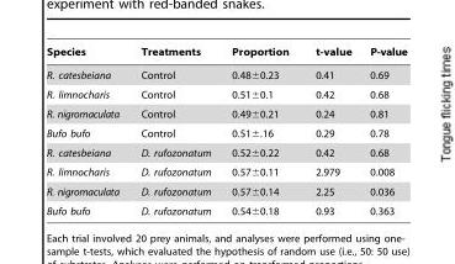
<table><thead><tr><td>Species</td><td>Treatments</td><td>Proportion</td><td>t-value</td><td>P-value</td></tr></thead><tbody><tr><td>R. catesbeiana</td><td>Control</td><td>0.48±0.23</td><td>0.41</td><td>0.69</td></tr><tr><td>R. limnocharis</td><td>Control</td><td>0.51±0.1</td><td>0.42</td><td>0.68</td></tr><tr><td>R. nigromaculata</td><td>Control</td><td>0.49±0.21</td><td>0.24</td><td>0.81</td></tr><tr><td>Bufo bufo</td><td>Control</td><td>0.51±.16</td><td>0.29</td><td>0.78</td></tr><tr><td>R. catesbeiana</td><td>D. rufozonatum</td><td>0.52±0.22</td><td>0.42</td><td>0.68</td></tr><tr><td>R. limnocharis</td><td>D. rufozonatum</td><td>0.57±0.11</td><td>2.979</td><td>0.008</td></tr><tr><td>R. nigromaculata</td><td>D. rufozonatum</td><td>0.57±0.14</td><td>2.25</td><td>0.036</td></tr><tr><td>Bufo bufo</td><td>D. rufozonatum</td><td>0.54±0.18</td><td>0.93</td><td>0.363</td></tr></tbody></table>